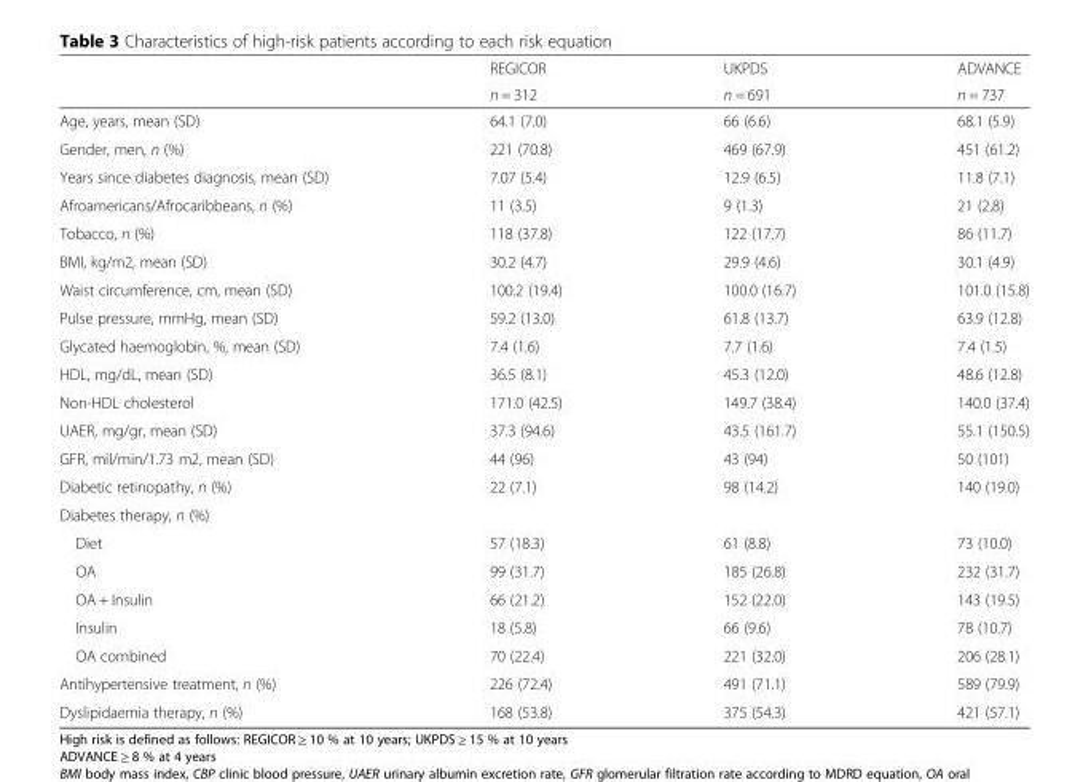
<table><thead><tr><td rowspan="2"></td><td rowspan="2">REGICOR n = 312</td><td rowspan="2">UKPDS n = 691</td><td rowspan="2">ADVANCE n = 737</td></tr><tr></tr></thead><tbody><tr><td>Age, years, mean (SD)</td><td>64.1 (7.0)</td><td>66 (6.6)</td><td>68.1 (5.9)</td></tr><tr><td>Gender, men, n (%)</td><td>221 (70.8)</td><td>469 (67.9)</td><td>451 (61.2)</td></tr><tr><td>Years since diabetes diagnosis, mean (SD)</td><td>7.07 (5.4)</td><td>12.9 (6.5)</td><td>11.8 (7.1)</td></tr><tr><td>Afroamericans/Afrocaribbeans, n (%)</td><td>11 (3.5)</td><td>9 (1.3)</td><td>21 (2.8)</td></tr><tr><td>Tobacco, n (%)</td><td>118 (37.8)</td><td>122 (17.7)</td><td>86 (11.7)</td></tr><tr><td>BMI, kg/m2, mean (SD)</td><td>30.2 (4.7)</td><td>29.9 (4.6)</td><td>30.1 (4.9)</td></tr><tr><td>Waist circumference, cm, mean (SD)</td><td>100.2 (19.4)</td><td>100.0 (16.7)</td><td>101.0 (15.8)</td></tr><tr><td>Pulse pressure, mmHg, mean (SD)</td><td>59.2 (13.0)</td><td>61.8 (13.7)</td><td>63.9 (12.8)</td></tr><tr><td>Glycated haemoglobin, %, mean (SD)</td><td>7.4 (1.6)</td><td>7.7 (1.6)</td><td>7.4 (1.5)</td></tr><tr><td>HDL, mg/dL, mean (SD)</td><td>36.5 (8.1)</td><td>45.3 (12.0)</td><td>48.6 (12.8)</td></tr><tr><td>Non-HDL cholesterol</td><td>171.0 (42.5)</td><td>149.7 (38.4)</td><td>140.0 (37.4)</td></tr><tr><td>UAER, mg/gr, mean (SD)</td><td>37.3 (94.6)</td><td>43.5 (161.7)</td><td>55.1 (150.5)</td></tr><tr><td>GFR, mil/min/1.73 m2, mean (SD)</td><td>44 (96)</td><td>43 (94)</td><td>50 (101)</td></tr><tr><td>Diabetic retinopathy, n (%)</td><td>22 (7.1)</td><td>98 (14.2)</td><td>140 (19.0)</td></tr><tr><td colspan="4">Diabetes therapy, n (%)</td></tr><tr><td>Diet</td><td>57 (18.3)</td><td>61 (8.8)</td><td>73 (10.0)</td></tr><tr><td>OA</td><td>99 (31.7)</td><td>185 (26.8)</td><td>232 (31.7)</td></tr><tr><td>OA + Insulin</td><td>66 (21.2)</td><td>152 (22.0)</td><td>143 (19.5)</td></tr><tr><td>Insulin</td><td>18 (5.8)</td><td>66 (9.6)</td><td>78 (10.7)</td></tr><tr><td>OA combined</td><td>70 (22.4)</td><td>221 (32.0)</td><td>206 (28.1)</td></tr><tr><td>Antihypertensive treatment, n (%)</td><td>226 (72.4)</td><td>491 (71.1)</td><td>589 (79.9)</td></tr><tr><td>Dyslipidaemia therapy, n (%)</td><td>168 (53.8)</td><td>375 (54.3)</td><td>421 (57.1)</td></tr></tbody></table>